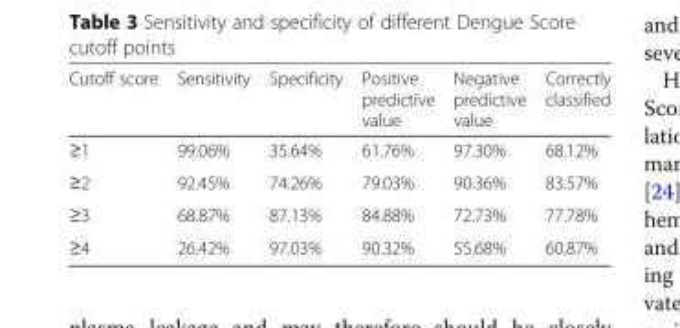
<table><thead><tr><td>Cutoff score</td><td>Sensitivity</td><td>Specificity</td><td>Positive predictive value</td><td>Negative predictive value</td><td>Correctly classified</td></tr></thead><tbody><tr><td>≥1</td><td>99.06%</td><td>35.64%</td><td>61.76%</td><td>97.30%</td><td>68.12%</td></tr><tr><td>≥2</td><td>92.45%</td><td>74.26%</td><td>79.03%</td><td>90.36%</td><td>83.57%</td></tr><tr><td>≥3</td><td>68.87%</td><td>87.13%</td><td>84.88%</td><td>72.73%</td><td>77.78%</td></tr><tr><td>≥4</td><td>26.42%</td><td>97.03%</td><td>90.32%</td><td>55.68%</td><td>60.87%</td></tr></tbody></table>